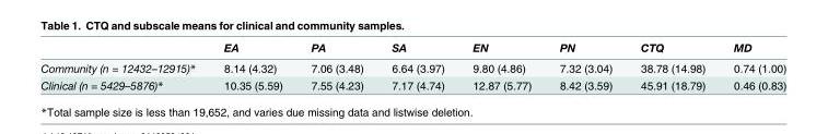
<table><thead><tr><td></td><td>EA</td><td>PA</td><td>SA</td><td>EN</td><td>PN</td><td>CTQ</td><td>MD</td></tr></thead><tbody><tr><td>Community (n = 12432–12915)*</td><td>8.14 (4.32)</td><td>7.06 (3.48)</td><td>6.64 (3.97)</td><td>9.80 (4.86)</td><td>7.32 (3.04)</td><td>38.78 (14.98)</td><td>0.74 (1.00)</td></tr><tr><td>Clinical (n = 5429–5876)*</td><td>10.35 (5.59)</td><td>7.55 (4.23)</td><td>7.17 (4.74)</td><td>12.87 (5.77)</td><td>8.42 (3.59)</td><td>45.91 (18.79)</td><td>0.46 (0.83)</td></tr></tbody></table>